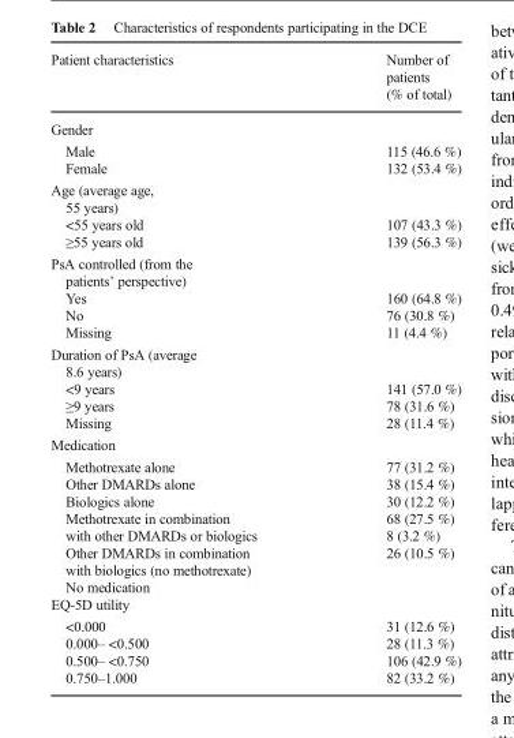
<table><thead><tr><td>Patient characteristics</td><td>Number of patients (% of total)</td></tr></thead><tbody><tr><td colspan="2">Gender</td></tr><tr><td>Male Female</td><td>115 (46.6 %) 132 (53.4 %)</td></tr><tr><td colspan="2">Age (average age, 55 years)</td></tr><tr><td>&lt;55 years old ≥55 years old</td><td>107 (43.3 %) 139 (56.3 %)</td></tr><tr><td colspan="2">PsA controlled (from the patients’ perspective)</td></tr><tr><td>Yes No Missing</td><td>160 (64.8 %) 76 (30.8 %) 11 (4.4 %)</td></tr><tr><td colspan="2">Duration of PsA (average 8.6 years)</td></tr><tr><td>&lt;9 years ≥9 years Missing</td><td>141 (57.0 %) 78 (31.6 %) 28 (11.4 %)</td></tr><tr><td colspan="2">Medication</td></tr><tr><td>Methotrexate alone Other DMARDs alone Biologics alone Methotrexate in combination with other DMARDs or biologics Other DMARDs in combination with biologics (no methotrexate) No medication</td><td>77 (31.2 %) 38 (15.4 %) 30 (12.2 %) 68 (27.5 %) 8 (3.2 %) 26 (10.5 %)</td></tr><tr><td colspan="2">EQ-5D utility</td></tr><tr><td>&lt;0.000 0.000– &lt;0.500 0.500– &lt;0.750 0.750–1.000</td><td>31 (12.6 %) 28 (11.3 %) 106 (42.9 %) 82 (33.2 %)</td></tr></tbody></table>